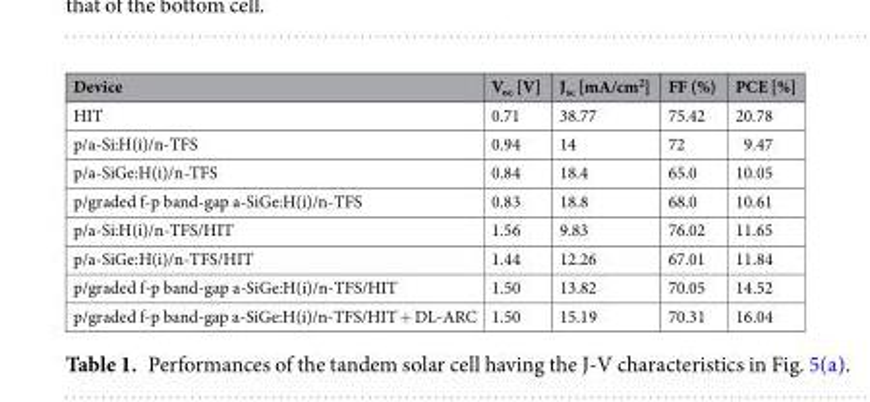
<table><thead><tr><td>Device</td><td>V<sub>oc</sub> [V]</td><td>J<sub>sc</sub> [mA/cm<sup>2</sup>]</td><td>FF (%)</td><td>PCE [%]</td></tr></thead><tbody><tr><td>HIT</td><td>0.71</td><td>38.77</td><td>75.42</td><td>20.78</td></tr><tr><td>p/a-Si:H(i)/n-TFS</td><td>0.94</td><td>14</td><td>72</td><td>9.47</td></tr><tr><td>p/a-SiGe:H(i)/n-TFS</td><td>0.84</td><td>18.4</td><td>65.0</td><td>10.05</td></tr><tr><td>p/graded f-p band-gap a-SiGe:H(i)/n-TFS</td><td>0.83</td><td>18.8</td><td>68.0</td><td>10.61</td></tr><tr><td>p/a-Si:H(i)/n-TFS/HIT</td><td>1.56</td><td>9.83</td><td>76.02</td><td>11.65</td></tr><tr><td>p/a-SiGe:H(i)/n-TFS/HIT</td><td>1.44</td><td>12.26</td><td>67.01</td><td>11.84</td></tr><tr><td>p/graded f-p band-gap a-SiGe:H(i)/n-TFS/HIT</td><td>1.50</td><td>13.82</td><td>70.05</td><td>14.52</td></tr><tr><td>p/graded f-p band-gap a-SiGe:H(i)/n-TFS/HIT + DL-ARC</td><td>1.50</td><td>15.19</td><td>70.31</td><td>16.04</td></tr></tbody></table>